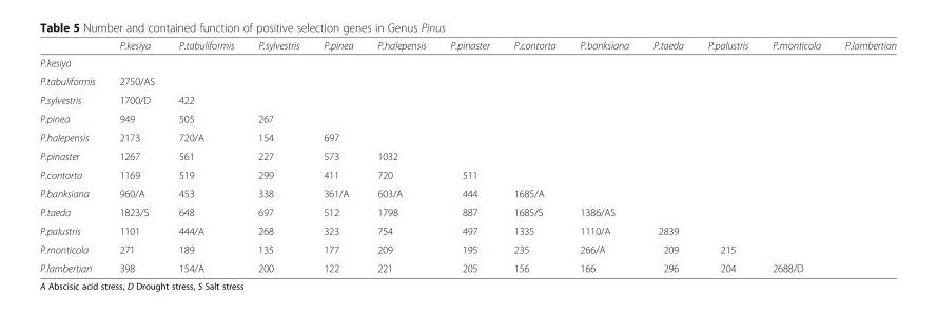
<table><thead><tr><td></td><td>P.kesiya</td><td>P.tabuliformis</td><td>P.sylvestris</td><td>P.pinea</td><td>P.halepensis</td><td>P.pinaster</td><td>P.contorta</td><td>P.banksiana</td><td>P.taeda</td><td>P.palustris</td><td>P.monticola</td><td>P.lambertian</td></tr></thead><tbody><tr><td colspan="13">P.kesiya</td></tr><tr><td>P.tabuliformis</td><td>2750/AS</td><td></td><td></td><td></td><td></td><td></td><td></td><td></td><td></td><td></td><td></td><td></td></tr><tr><td>P.sylvestris</td><td>1700/D</td><td>422</td><td></td><td></td><td></td><td></td><td></td><td></td><td></td><td></td><td></td><td></td></tr><tr><td>P.pinea</td><td>949</td><td>505</td><td>267</td><td></td><td></td><td></td><td></td><td></td><td></td><td></td><td></td><td></td></tr><tr><td>P.halepensis</td><td>2173</td><td>720/A</td><td>154</td><td>697</td><td></td><td></td><td></td><td></td><td></td><td></td><td></td><td></td></tr><tr><td>P.pinaster</td><td>1267</td><td>561</td><td>227</td><td>573</td><td>1032</td><td></td><td></td><td></td><td></td><td></td><td></td><td></td></tr><tr><td>P.contorta</td><td>1169</td><td>519</td><td>299</td><td>411</td><td>720</td><td>511</td><td></td><td></td><td></td><td></td><td></td><td></td></tr><tr><td>P.banksiana</td><td>960/A</td><td>453</td><td>338</td><td>361/A</td><td>603/A</td><td>444</td><td>1685/A</td><td></td><td></td><td></td><td></td><td></td></tr><tr><td>P.taeda</td><td>1823/S</td><td>648</td><td>697</td><td>512</td><td>1798</td><td>887</td><td>1685/S</td><td>1386/AS</td><td></td><td></td><td></td><td></td></tr><tr><td>P.palustris</td><td>1101</td><td>444/A</td><td>268</td><td>323</td><td>754</td><td>497</td><td>1335</td><td>1110/A</td><td>2839</td><td></td><td></td><td></td></tr><tr><td>P.monticola</td><td>271</td><td>189</td><td>135</td><td>177</td><td>209</td><td>195</td><td>235</td><td>266/A</td><td>209</td><td>215</td><td></td><td></td></tr><tr><td>P.lambertian</td><td>398</td><td>154/A</td><td>200</td><td>122</td><td>221</td><td>205</td><td>156</td><td>166</td><td>296</td><td>204</td><td>2688/D</td><td></td></tr></tbody></table>